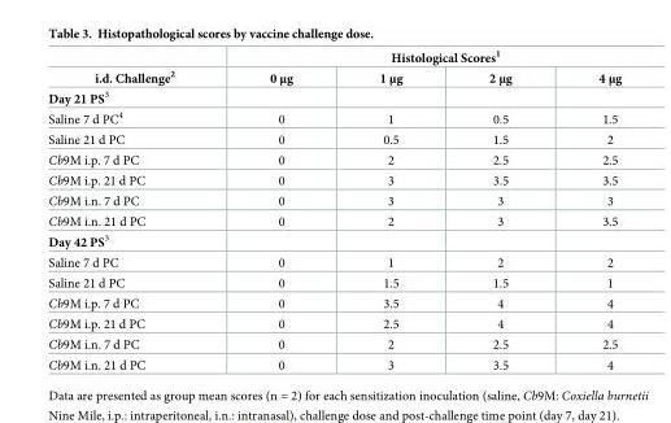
<table><thead><tr><td rowspan="2">i.d. Challenge<sup>2</sup></td><td colspan="4">Histological Scores<sup>1</sup></td></tr><tr><td>0 μg</td><td>1 μg</td><td>2 μg</td><td>4 μg</td></tr></thead><tbody><tr><td colspan="5">Day 21 PS<sup>3</sup></td></tr><tr><td>Saline 7 d PC<sup>4</sup></td><td>0</td><td>1</td><td>0.5</td><td>1.5</td></tr><tr><td>Saline 21 d PC</td><td>0</td><td>0.5</td><td>1.5</td><td>2</td></tr><tr><td>Cb9M i.p. 7 d PC</td><td>0</td><td>2</td><td>2.5</td><td>2.5</td></tr><tr><td>Cb9M i.p. 21 d PC</td><td>0</td><td>3</td><td>3.5</td><td>3.5</td></tr><tr><td>Cb9M i.n. 7 d PC</td><td>0</td><td>3</td><td>3</td><td>3</td></tr><tr><td>Cb9M i.n. 21 d PC</td><td>0</td><td>2</td><td>3</td><td>3.5</td></tr><tr><td colspan="5">Day 42 PS<sup>3</sup></td></tr><tr><td>Saline 7 d PC</td><td>0</td><td>1</td><td>2</td><td>2</td></tr><tr><td>Saline 21 d PC</td><td>0</td><td>1.5</td><td>1.5</td><td>1</td></tr><tr><td>Cb9M i.p. 7 d PC</td><td>0</td><td>3.5</td><td>4</td><td>4</td></tr><tr><td>Cb9M i.p. 21 d PC</td><td>0</td><td>2.5</td><td>4</td><td>4</td></tr><tr><td>Cb9M i.n. 7 d PC</td><td>0</td><td>2</td><td>2.5</td><td>2.5</td></tr><tr><td>Cb9M i.n. 21 d PC</td><td>0</td><td>3</td><td>3.5</td><td>4</td></tr></tbody></table>